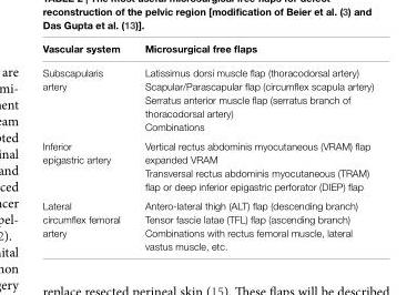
<table><thead><tr><td>vascular system</td><td>Microsurgical free flaps</td></tr></thead><tbody><tr><td>Subscapularis artery</td><td>Latissimus dorsi muscle flap (thoracodorsal artery) Scapular/Parascapular flap (circumflex scapula artery) Serratus anterior muscle flap (serratus branch of thoracodorsal artery) Combinations</td></tr><tr><td>Inferior epigastric artery</td><td>Vertical rectus abdominis myocutaneous (VRAM) flap expanded VRAM Transversal rectus abdominis myocutaneous (TRAM) flap or deep inferior epigastric perforator (DIEP) flap</td></tr><tr><td>Lateral circumflex femoral artery</td><td>Antero-lateral thigh (ALT) flap (descending branch) Tensor fascie latae (TFL) flap (ascending branch) Combinations with rectus femoral muscle, lateral vastus muscle, etc.</td></tr></tbody></table>